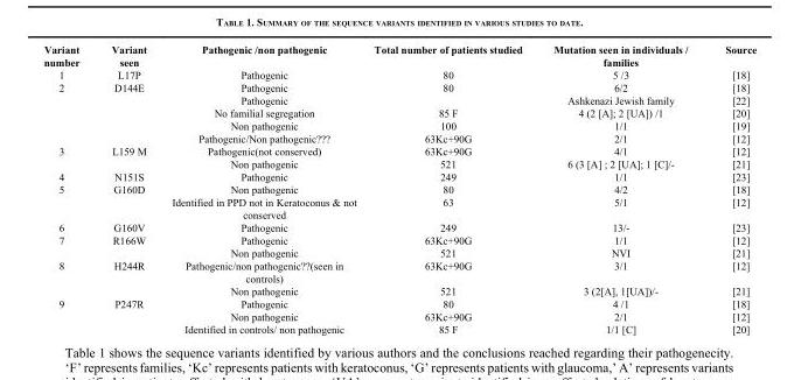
<table><thead><tr><td>Variant number</td><td>Variant seen</td><td>Pathogenic /non pathogenic</td><td>Total number of patients studied</td><td>Mutation seen in individuals / families</td><td>Source</td></tr></thead><tbody><tr><td>1</td><td>L17P</td><td>Pathogenic</td><td>80</td><td>5 /3</td><td>[18]</td></tr><tr><td rowspan="5">2</td><td>D144E</td><td>Pathogenic</td><td>80</td><td>6/2</td><td>[18]</td></tr><tr><td></td><td>Pathogenic</td><td></td><td>Ashkenazi Jewish family</td><td>[22]</td></tr><tr><td></td><td>No familial segregation</td><td>85 F</td><td>4 (2 [A]; 2 [UA]) /1</td><td>[20]</td></tr><tr><td></td><td>Non pathogenic</td><td>100</td><td>1/1</td><td>[19]</td></tr><tr><td></td><td>Pathogenic/Non pathogenic???</td><td>63Kc+90G</td><td>2/1</td><td>[12]</td></tr><tr><td rowspan="2">3</td><td>L159 M</td><td>Pathogenic(not conserved)</td><td>63Kc+90G</td><td>4/1</td><td>[12]</td></tr><tr><td></td><td>Non pathogenic</td><td>521</td><td>6 (3 [A] ; 2 [UA]; 1 [C]/-</td><td>[21]</td></tr><tr><td>4</td><td>N151S</td><td>Pathogenic</td><td>249</td><td>1/1</td><td>[23]</td></tr><tr><td rowspan="2">5</td><td>G160D</td><td>Non pathogenic</td><td>80</td><td>4/2</td><td>[18]</td></tr><tr><td></td><td>Identified in PPD not in Keratoconus &amp; not conserved</td><td>63</td><td>5/1</td><td>[12]</td></tr><tr><td>6</td><td>G160V</td><td>Pathogenic</td><td>249</td><td>13/-</td><td>[23]</td></tr><tr><td rowspan="2">7</td><td>R166W</td><td>Pathogenic</td><td>63Kc+90G</td><td>1/1</td><td>[12]</td></tr><tr><td></td><td>Non pathogenic</td><td>521</td><td>NVI</td><td>[21]</td></tr><tr><td rowspan="2">8</td><td>H244R</td><td>Pathogenic/non pathogenic??(seen in controls)</td><td>63Kc+90G</td><td>3/1</td><td>[12]</td></tr><tr><td></td><td>Non pathogenic</td><td>521</td><td>3 (2[A], 1[UA])/-</td><td>[21]</td></tr><tr><td rowspan="3">9</td><td>P247R</td><td>Pathogenic</td><td>80</td><td>4 /1</td><td>[18]</td></tr><tr><td></td><td>Non pathogenic</td><td>63Kc+90G</td><td>2/1</td><td>[12]</td></tr><tr><td></td><td>Identified in controls/ non pathogenic</td><td>85 F</td><td>1/1 [C]</td><td>[20]</td></tr></tbody></table>